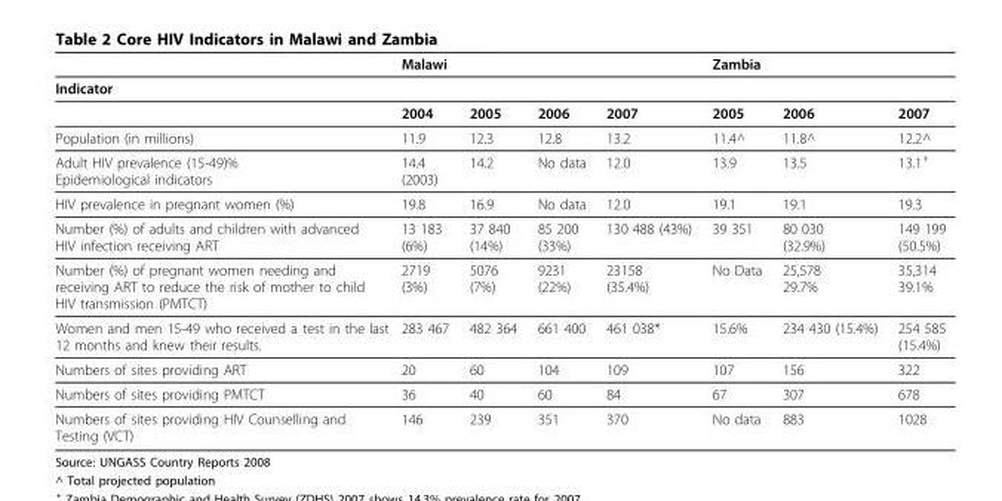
<table><thead><tr><td></td><td>Malawi</td><td></td><td></td><td></td><td>Zambia</td><td></td><td></td></tr></thead><tbody><tr><td colspan="8">Indicator</td></tr><tr><td></td><td>2004</td><td>2005</td><td>2006</td><td>2007</td><td>2005</td><td>2006</td><td>2007</td></tr><tr><td>Population (in millions)</td><td>11.9</td><td>12.3</td><td>12.8</td><td>13.2</td><td>11.4^</td><td>11.8^</td><td>12.2^</td></tr><tr><td>Adult HIV prevalence (15-49)% Epidemiological indicators</td><td>14.4 (2003)</td><td>14.2</td><td>No data</td><td>12.0</td><td>13.9</td><td>13.5</td><td>13.1<sup>+</sup></td></tr><tr><td>HIV prevalence in pregnant women (%)</td><td>19.8</td><td>16.9</td><td>No data</td><td>12.0</td><td>19.1</td><td>19.1</td><td>19.3</td></tr><tr><td>Number (%) of adults and children with advanced HIV infection receiving ART</td><td>13 183 (6%)</td><td>37 840 (14%)</td><td>85 200 (33%)</td><td>130 488 (43%)</td><td>39 351</td><td>80 030 (32.9%)</td><td>149 199 (50.5%)</td></tr><tr><td>Number (%) of pregnant women needing and receiving ART to reduce the risk of mother to child HIV transmission (PMTCT)</td><td>2719 (3%)</td><td>5076 (7%)</td><td>9231 (22%)</td><td>23158 (35.4%)</td><td>No Data</td><td>25,578 29.7%</td><td>35,314 39.1%</td></tr><tr><td>Women and men 15-49 who received a test in the last 12 months and knew their results.</td><td>283 467</td><td>482 364</td><td>661 400</td><td>461 038*</td><td>15.6%</td><td>234 430 (15.4%)</td><td>254 585 (15.4%)</td></tr><tr><td>Numbers of sites providing ART</td><td>20</td><td>60</td><td>104</td><td>109</td><td>107</td><td>156</td><td>322</td></tr><tr><td>Numbers of sites providing PMTCT</td><td>36</td><td>40</td><td>60</td><td>84</td><td>67</td><td>307</td><td>678</td></tr><tr><td>Numbers of sites providing HIV Counselling and Testing (VCT)</td><td>146</td><td>239</td><td>351</td><td>370</td><td>No data</td><td>883</td><td>1028</td></tr></tbody></table>